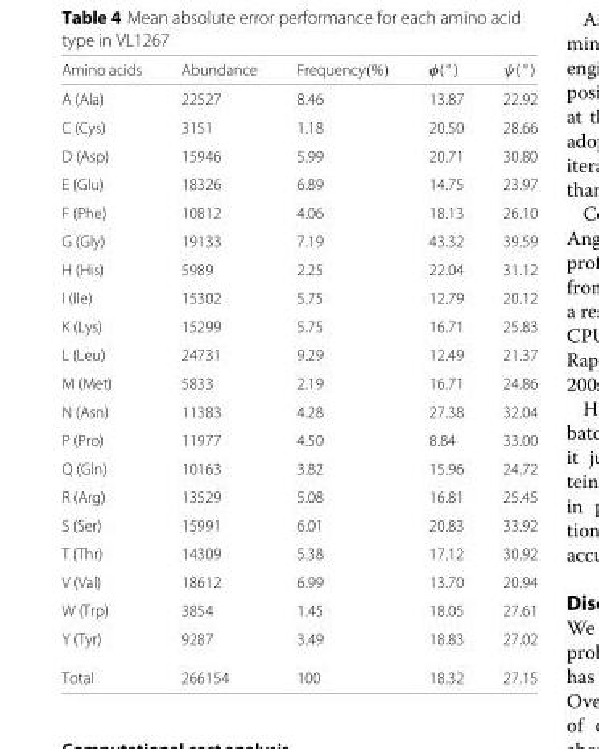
<table><thead><tr><td>Amino acids</td><td>Abundance</td><td>Frequency(%)</td><td>φ( ° )</td><td>ψ( ° )</td></tr></thead><tbody><tr><td>A (Ala)</td><td>22527</td><td>8.46</td><td>13.87</td><td>22.92</td></tr><tr><td>C (Cys)</td><td>3151</td><td>1.18</td><td>20.50</td><td>28.66</td></tr><tr><td>D (Asp)</td><td>15946</td><td>5.99</td><td>20.71</td><td>30.80</td></tr><tr><td>E (Glu)</td><td>18326</td><td>6.89</td><td>14.75</td><td>23.97</td></tr><tr><td>F (Phe)</td><td>10812</td><td>4.06</td><td>18.13</td><td>26.10</td></tr><tr><td>G (Gly)</td><td>19133</td><td>7.19</td><td>43.32</td><td>39.59</td></tr><tr><td>H (His)</td><td>5989</td><td>2.25</td><td>22.04</td><td>31.12</td></tr><tr><td>I (Ile)</td><td>15302</td><td>5.75</td><td>12.79</td><td>20.12</td></tr><tr><td>K (Lys)</td><td>15299</td><td>5.75</td><td>16.71</td><td>25.83</td></tr><tr><td>L (Leu)</td><td>24731</td><td>9.29</td><td>12.49</td><td>21.37</td></tr><tr><td>M (Met)</td><td>5833</td><td>2.19</td><td>16.71</td><td>24.86</td></tr><tr><td>N (Asn)</td><td>11383</td><td>4.28</td><td>27.38</td><td>32.04</td></tr><tr><td>P (Pro)</td><td>11977</td><td>4.50</td><td>8.84</td><td>33.00</td></tr><tr><td>Q (Gln)</td><td>10163</td><td>3.82</td><td>15.96</td><td>24.72</td></tr><tr><td>R (Arg)</td><td>13529</td><td>5.08</td><td>16.81</td><td>25.45</td></tr><tr><td>S (Ser)</td><td>15991</td><td>6.01</td><td>20.83</td><td>33.92</td></tr><tr><td>T (Thr)</td><td>14309</td><td>5.38</td><td>17.12</td><td>30.92</td></tr><tr><td>V (Val)</td><td>18612</td><td>6.99</td><td>13.70</td><td>20.94</td></tr><tr><td>W (Trp)</td><td>3854</td><td>1.45</td><td>18.05</td><td>27.61</td></tr><tr><td>Y (Tyr)</td><td>9287</td><td>3.49</td><td>18.83</td><td>27.02</td></tr><tr><td>Total</td><td>266154</td><td>100</td><td>18.32</td><td>27.15</td></tr></tbody></table>